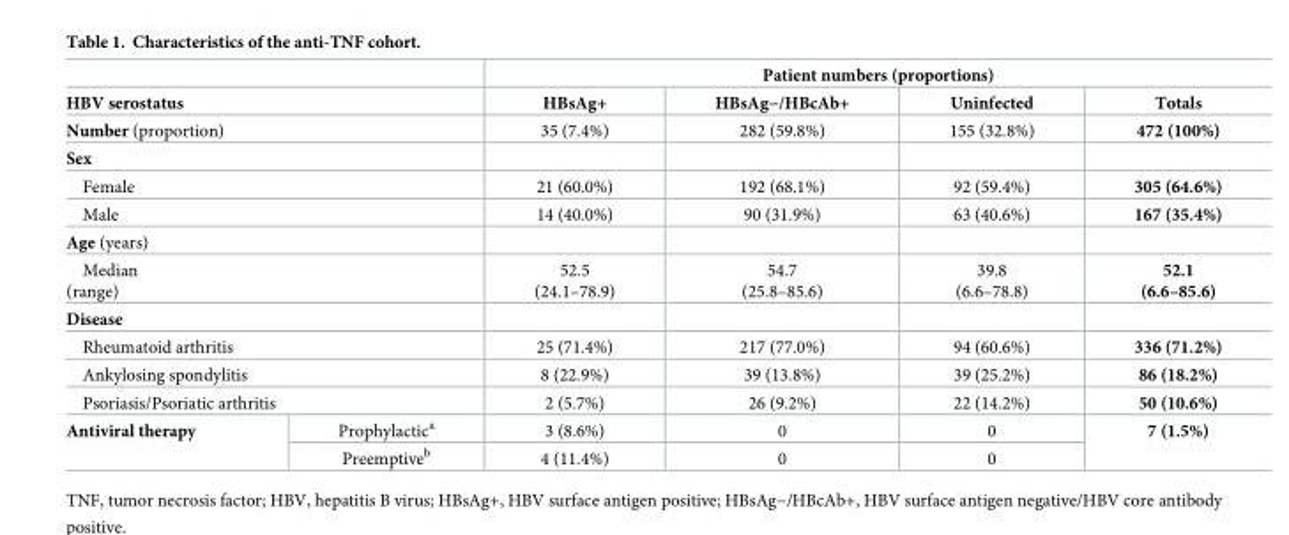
<table><thead><tr><td></td><td></td><td colspan="4">Patient numbers (proportions)</td></tr><tr><td colspan="2">HBV serostatus</td><td>HBsAg+</td><td>HBsAg−/HBcAb+</td><td>Uninfected</td><td>Totals</td></tr></thead><tbody><tr><td colspan="2">Number (proportion)</td><td>35 (7.4%)</td><td>282 (59.8%)</td><td>155 (32.8%)</td><td>472 (100%)</td></tr><tr><td colspan="6">Sex</td></tr><tr><td colspan="2">Female</td><td>21 (60.0%)</td><td>192 (68.1%)</td><td>92 (59.4%)</td><td>305 (64.6%)</td></tr><tr><td colspan="2">Male</td><td>14 (40.0%)</td><td>90 (31.9%)</td><td>63 (40.6%)</td><td>167 (35.4%)</td></tr><tr><td colspan="6">Age (years)</td></tr><tr><td colspan="2">Median (range)</td><td>52.5 (24.1–78.9)</td><td>54.7 (25.8–85.6)</td><td>39.8 (6.6–78.8)</td><td>52.1 (6.6–85.6)</td></tr><tr><td colspan="6">Disease</td></tr><tr><td colspan="2">Rheumatoid arthritis</td><td>25 (71.4%)</td><td>217 (77.0%)</td><td>94 (60.6%)</td><td>336 (71.2%)</td></tr><tr><td colspan="2">Ankylosing spondylitis</td><td>8 (22.9%)</td><td>39 (13.8%)</td><td>39 (25.2%)</td><td>86 (18.2%)</td></tr><tr><td colspan="2">Psoriasis/Psoriatic arthritis</td><td>2 (5.7%)</td><td>26 (9.2%)</td><td>22 (14.2%)</td><td>50 (10.6%)</td></tr><tr><td rowspan="2">Antiviral therapy</td><td>Prophylactic<sup>a</sup></td><td>3 (8.6%)</td><td>0</td><td>0</td><td rowspan="2">7 (1.5%)</td></tr><tr><td>Preemptive<sup>b</sup></td><td>4 (11.4%)</td><td>0</td><td>0</td></tr></tbody></table>